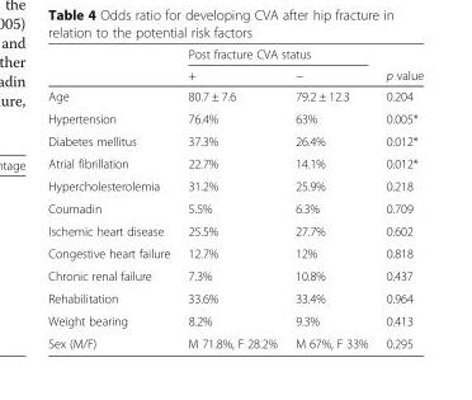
<table><thead><tr><td rowspan="2"></td><td colspan="2">Post fracture CVA status</td><td rowspan="2">p value</td></tr><tr><td>+</td><td>−</td></tr></thead><tbody><tr><td>Age</td><td>80.7 ± 7.6</td><td>79.2 ± 12.3</td><td>0.204</td></tr><tr><td>Hypertension</td><td>76.4%</td><td>63%</td><td>0.005*</td></tr><tr><td>Diabetes mellitus</td><td>37.3%</td><td>26.4%</td><td>0.012*</td></tr><tr><td>Atrial fibrillation</td><td>22.7%</td><td>14.1%</td><td>0.012*</td></tr><tr><td>Hypercholesterolemia</td><td>31.2%</td><td>25.9%</td><td>0.218</td></tr><tr><td>Coumadin</td><td>5.5%</td><td>6.3%</td><td>0.709</td></tr><tr><td>Ischemic heart disease</td><td>25.5%</td><td>27.7%</td><td>0.602</td></tr><tr><td>Congestive heart failure</td><td>12.7%</td><td>12%</td><td>0.818</td></tr><tr><td>Chronic renal failure</td><td>7.3%</td><td>10.8%</td><td>0.437</td></tr><tr><td>Rehabilitation</td><td>33.6%</td><td>33.4%</td><td>0.964</td></tr><tr><td>Weight bearing</td><td>8.2%</td><td>9.3%</td><td>0.413</td></tr><tr><td>Sex (M/F)</td><td>M 71.8%, F 28.2%</td><td>M 67%, F 33%</td><td>0.295</td></tr></tbody></table>